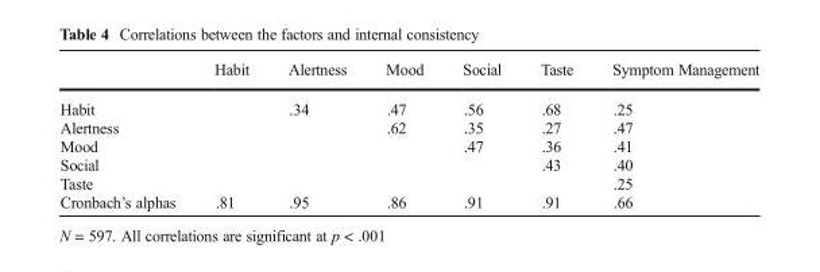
<table><thead><tr><td></td><td>Habit</td><td>Alertness</td><td>Mood</td><td>Social</td><td>Taste</td><td>Symptom Management</td></tr></thead><tbody><tr><td>Habit</td><td></td><td>.34</td><td>.47</td><td>.56</td><td>.68</td><td>.25</td></tr><tr><td>Alertness</td><td></td><td></td><td>.62</td><td>.35</td><td>.27</td><td>.47</td></tr><tr><td>Mood</td><td></td><td></td><td></td><td>.47</td><td>.36</td><td>.41</td></tr><tr><td>Social</td><td></td><td></td><td></td><td></td><td>.43</td><td>.40</td></tr><tr><td>Taste</td><td></td><td></td><td></td><td></td><td></td><td>.25</td></tr><tr><td>Cronbach’s alphas</td><td>.81</td><td>.95</td><td>.86</td><td>.91</td><td>.91</td><td>.66</td></tr></tbody></table>